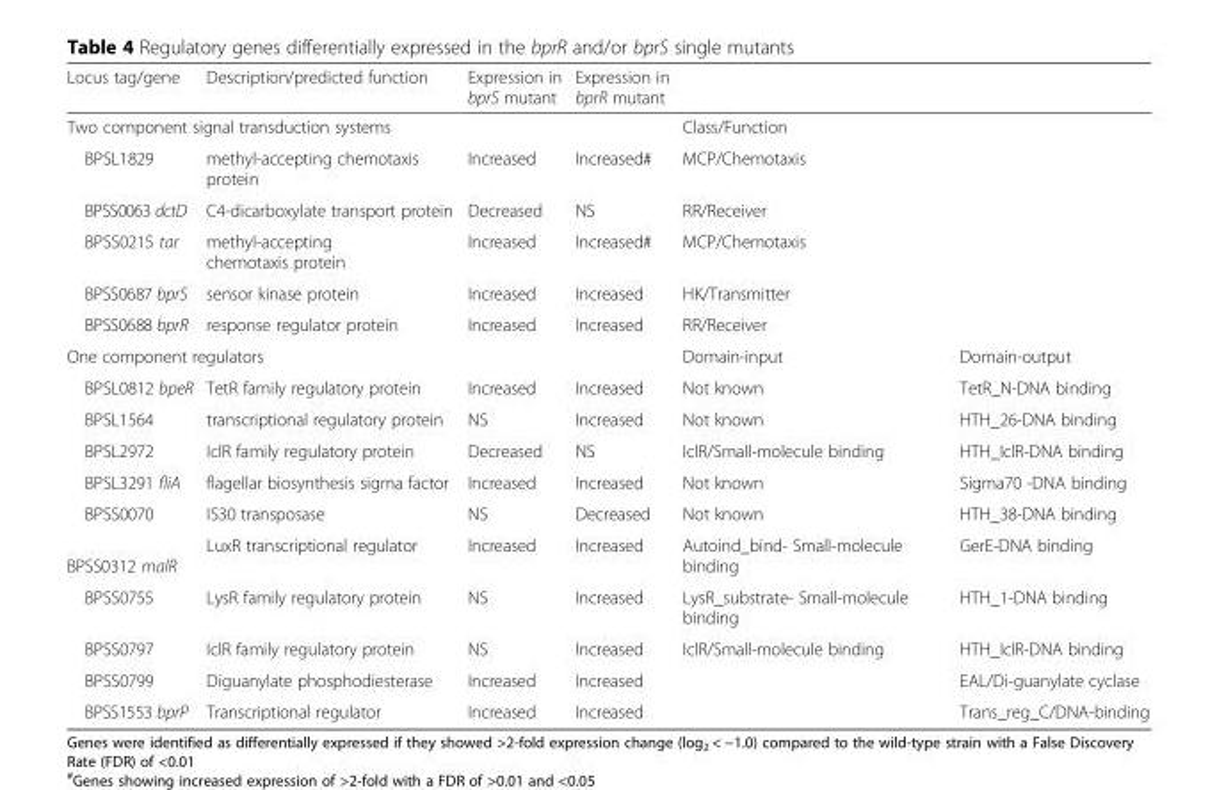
<table><thead><tr><td>Locus tag/gene</td><td>Description/predicted function</td><td>Expression in bprS mutant</td><td>Expression in bprR mutant</td><td></td><td></td></tr></thead><tbody><tr><td colspan="4">Two component signal transduction systems</td><td colspan="2">Class/Function</td></tr><tr><td>BPSL1829</td><td>methyl-accepting chemotaxis protein</td><td>Increased</td><td>Increased#</td><td colspan="2">MCP/Chemotaxis</td></tr><tr><td>BPSS0063 dctD</td><td>C4-dicarboxylate transport protein</td><td>Decreased</td><td>NS</td><td colspan="2">RR/Receiver</td></tr><tr><td>BPSS0215 tar</td><td>methyl-accepting chemotaxis protein</td><td>Increased</td><td>Increased#</td><td colspan="2">MCP/Chemotaxis</td></tr><tr><td>BPSS0687 bprS</td><td>sensor kinase protein</td><td>Increased</td><td>Increased</td><td colspan="2">HK/Transmitter</td></tr><tr><td>BPSS0688 bprR</td><td>response regulator protein</td><td>Increased</td><td>Increased</td><td colspan="2">RR/Receiver</td></tr><tr><td colspan="4">One component regulators</td><td>Domain-input</td><td>Domain-output</td></tr><tr><td>BPSL0812 bpeR</td><td>TetR family regulatory protein</td><td>Increased</td><td>Increased</td><td>Not known</td><td>TetR_N-DNA binding</td></tr><tr><td>BPSL1564</td><td>transcriptional regulatory protein</td><td>NS</td><td>Increased</td><td>Not known</td><td>HTH_26-DNA binding</td></tr><tr><td>BPSL2972</td><td>IclR family regulatory protein</td><td>Decreased</td><td>NS</td><td>IclR/Small-molecule binding</td><td>HTH_IclR-DNA binding</td></tr><tr><td>BPSL3291 fliA</td><td>flagellar biosynthesis sigma factor</td><td>Increased</td><td>Increased</td><td>Not known</td><td>Sigma70 -DNA binding</td></tr><tr><td>BPSS0070</td><td>IS30 transposase</td><td>NS</td><td>Decreased</td><td>Not known</td><td>HTH_38-DNA binding</td></tr><tr><td>BPSS0312 malR</td><td>LuxR transcriptional regulator</td><td>Increased</td><td>Increased</td><td>Autoind_bind- Small-molecule binding</td><td>GerE-DNA binding</td></tr><tr><td>BPSS0755</td><td>LysR family regulatory protein</td><td>NS</td><td>Increased</td><td>LysR_substrate- Small-molecule binding</td><td>HTH_1-DNA binding</td></tr><tr><td>BPSS0797</td><td>IclR family regulatory protein</td><td>NS</td><td>Increased</td><td>IclR/Small-molecule binding</td><td>HTH_IclR-DNA binding</td></tr><tr><td>BPSS0799</td><td>Diguanylate phosphodiesterase</td><td>Increased</td><td>Increased</td><td></td><td>EAL/Di-guanylate cyclase</td></tr><tr><td>BPSS1553 bprP</td><td>Transcriptional regulator</td><td>Increased</td><td>Increased</td><td></td><td>Trans_reg_C/DNA-binding</td></tr></tbody></table>